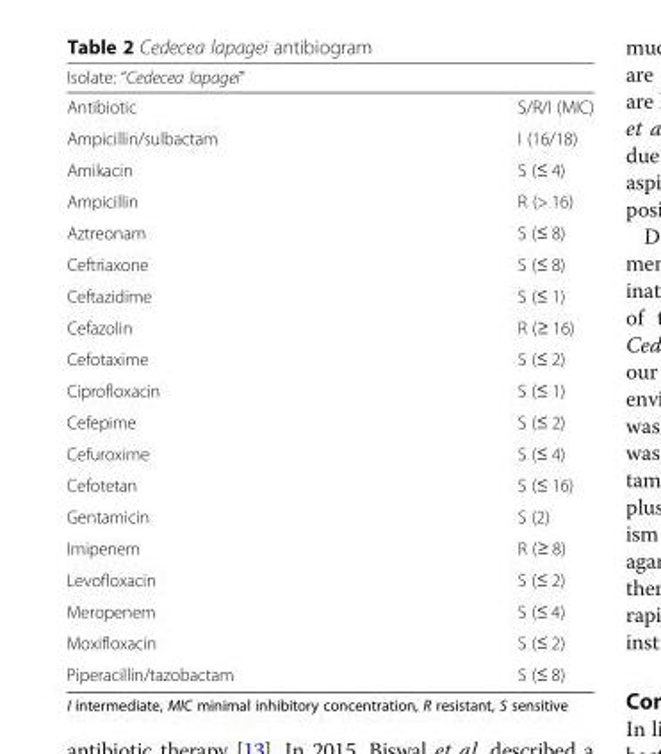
<table><thead><tr><td colspan="2">Isolate: “Cedecea lapagei”</td></tr><tr><td>Antibiotic</td><td>S/R/I (MIC)</td></tr></thead><tbody><tr><td>Ampicillin/sulbactam</td><td>I (16/18)</td></tr><tr><td>Amikacin</td><td>S (≤ 4)</td></tr><tr><td>Ampicillin</td><td>R (&gt; 16)</td></tr><tr><td>Aztreonam</td><td>S (≤ 8)</td></tr><tr><td>Ceftriaxone</td><td>S (≤ 8)</td></tr><tr><td>Ceftazidime</td><td>S (≤ 1)</td></tr><tr><td>Cefazolin</td><td>R (≥ 16)</td></tr><tr><td>Cefotaxime</td><td>S (≤ 2)</td></tr><tr><td>Ciprofloxacin</td><td>S (≤ 1)</td></tr><tr><td>Cefepime</td><td>S (≤ 2)</td></tr><tr><td>Cefuroxime</td><td>S (≤ 4)</td></tr><tr><td>Cefotetan</td><td>S (≤ 16)</td></tr><tr><td>Gentamicin</td><td>S (2)</td></tr><tr><td>Imipenem</td><td>R (≥ 8)</td></tr><tr><td>Levofloxacin</td><td>S (≤ 2)</td></tr><tr><td>Meropenem</td><td>S (≤ 4)</td></tr><tr><td>Moxifloxacin</td><td>S (≤ 2)</td></tr><tr><td>Piperacillin/tazobactam</td><td>S (≤ 8)</td></tr></tbody></table>